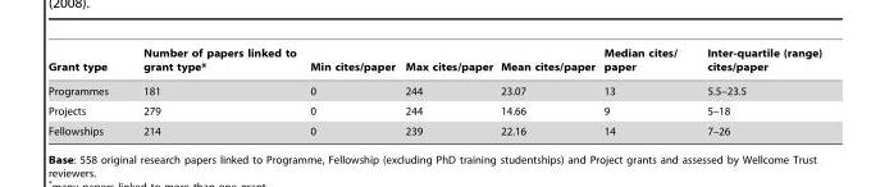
<table><thead><tr><td>Grant type</td><td>Number of papers linked to grant type*</td><td>Min cites/paper</td><td>Max cites/paper</td><td>Mean cites/paper</td><td>Median cites/ paper</td><td>Inter-quartile (range) cites/paper</td></tr></thead><tbody><tr><td>Programmes</td><td>181</td><td>0</td><td>244</td><td>23.07</td><td>13</td><td>5.5–23.5</td></tr><tr><td>Projects</td><td>279</td><td>0</td><td>244</td><td>14.66</td><td>9</td><td>5–18</td></tr><tr><td>Fellowships</td><td>214</td><td>0</td><td>239</td><td>22.16</td><td>14</td><td>7–26</td></tr></tbody></table>